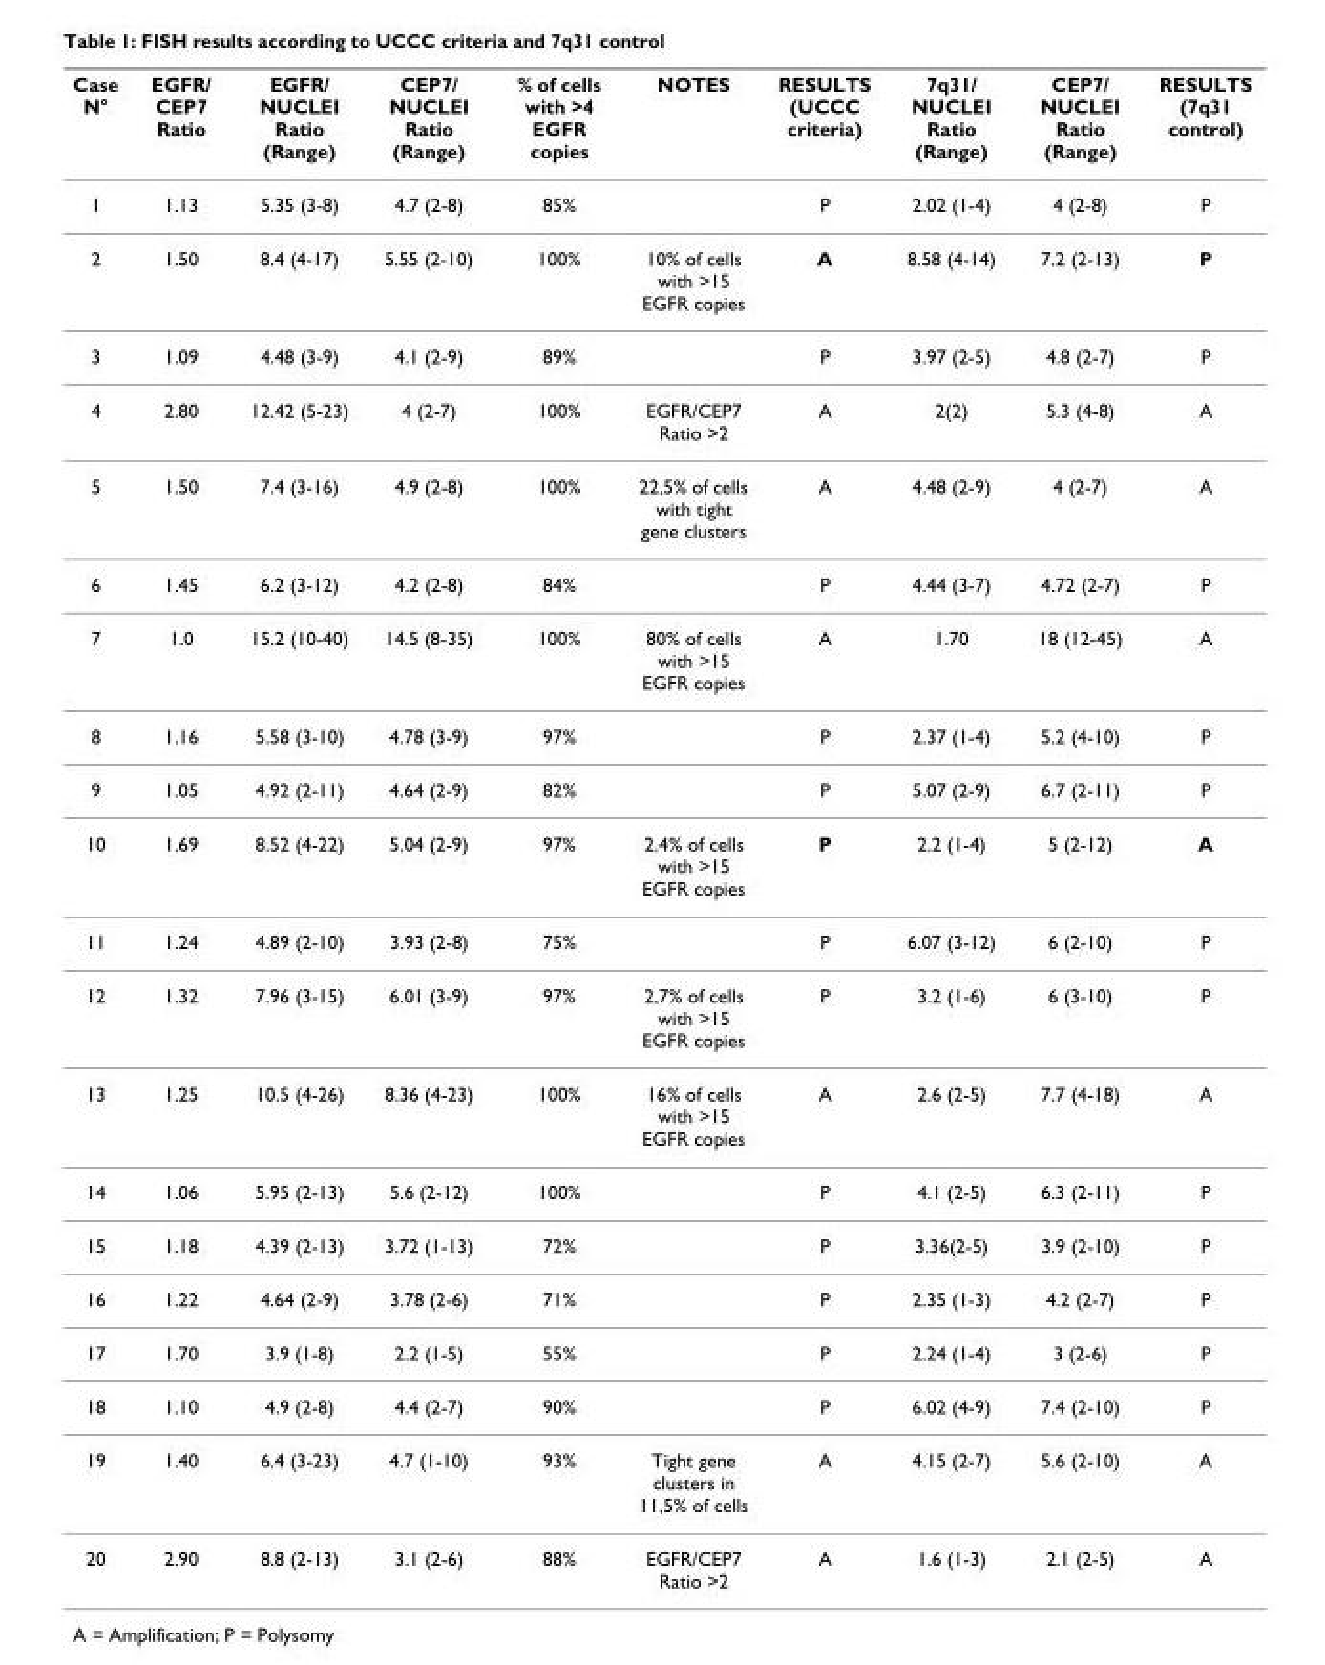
<table><thead><tr><td>Case N°</td><td>EGFR/ CEP7 Ratio</td><td>EGFR/ NUCLEI Ratio (Range)</td><td>CEP7/ NUCLEI Ratio (Range)</td><td>% of cells with &gt;4 EGFR copies</td><td>NOTES</td><td>RESULTS (UCCC criteria)</td><td>7q31/ NUCLEI Ratio (Range)</td><td>CEP7/ NUCLEI Ratio (Range)</td><td>RESULTS (7q31 control)</td></tr></thead><tbody><tr><td>1</td><td>1.13</td><td>5.35 (3-8)</td><td>4.7 (2-8)</td><td>85%</td><td></td><td>P</td><td>2.02 (1-4)</td><td>4 (2-8)</td><td>P</td></tr><tr><td>2</td><td>1.50</td><td>8.4 (4-17)</td><td>5.55 (2-10)</td><td>100%</td><td>10% of cells with &gt;15 EGFR copies</td><td>A</td><td>8.58 (4-14)</td><td>7.2 (2-13)</td><td>P</td></tr><tr><td>3</td><td>1.09</td><td>4.48 (3-9)</td><td>4.1 (2-9)</td><td>89%</td><td></td><td>P</td><td>3.97 (2-5)</td><td>4.8 (2-7)</td><td>P</td></tr><tr><td>4</td><td>2.80</td><td>12.42 (5-23)</td><td>4 (2-7)</td><td>100%</td><td>EGFR/CEP7 Ratio &gt;2</td><td>A</td><td>2(2)</td><td>5.3 (4-8)</td><td>A</td></tr><tr><td>5</td><td>1.50</td><td>7.4 (3-16)</td><td>4.9 (2-8)</td><td>100%</td><td>22,5% of cells with tight gene clusters</td><td>A</td><td>4.48 (2-9)</td><td>4 (2-7)</td><td>A</td></tr><tr><td>6</td><td>1.45</td><td>6.2 (3-12)</td><td>4.2 (2-8)</td><td>84%</td><td></td><td>P</td><td>4.44 (3-7)</td><td>4.72 (2-7)</td><td>P</td></tr><tr><td>7</td><td>1.0</td><td>15.2 (10-40)</td><td>14.5 (8-35)</td><td>100%</td><td>80% of cells with &gt;15 EGFR copies</td><td>A</td><td>1.70</td><td>18 (12-45)</td><td>A</td></tr><tr><td>8</td><td>1.16</td><td>5.58 (3-10)</td><td>4.78 (3-9)</td><td>97%</td><td></td><td>P</td><td>2.37 (1-4)</td><td>5.2 (4-10)</td><td>P</td></tr><tr><td>9</td><td>1.05</td><td>4.92 (2-11)</td><td>4.64 (2-9)</td><td>82%</td><td></td><td>P</td><td>5.07 (2-9)</td><td>6.7 (2-11)</td><td>P</td></tr><tr><td>10</td><td>1.69</td><td>8.52 (4-22)</td><td>5.04 (2-9)</td><td>97%</td><td>2.4% of cells with &gt;15 EGFR copies</td><td>P</td><td>2.2 (1-4)</td><td>5 (2-12)</td><td>A</td></tr><tr><td>11</td><td>1.24</td><td>4.89 (2-10)</td><td>3.93 (2-8)</td><td>75%</td><td></td><td>P</td><td>6.07 (3-12)</td><td>6 (2-10)</td><td>P</td></tr><tr><td>12</td><td>1.32</td><td>7.96 (3-15)</td><td>6.01 (3-9)</td><td>97%</td><td>2,7% of cells with &gt;15 EGFR copies</td><td>P</td><td>3.2 (1-6)</td><td>6 (3-10)</td><td>P</td></tr><tr><td>13</td><td>1.25</td><td>10.5 (4-26)</td><td>8.36 (4-23)</td><td>100%</td><td>16% of cells with &gt;15 EGFR copies</td><td>A</td><td>2.6 (2-5)</td><td>7.7 (4-18)</td><td>A</td></tr><tr><td>14</td><td>1.06</td><td>5.95 (2-13)</td><td>5.6 (2-12)</td><td>100%</td><td></td><td>P</td><td>4.1 (2-5)</td><td>6.3 (2-11)</td><td>P</td></tr><tr><td>15</td><td>1.18</td><td>4.39 (2-13)</td><td>3.72 (1-13)</td><td>72%</td><td></td><td>P</td><td>3.36(2-5)</td><td>3.9 (2-10)</td><td>P</td></tr><tr><td>16</td><td>1.22</td><td>4.64 (2-9)</td><td>3.78 (2-6)</td><td>71%</td><td></td><td>P</td><td>2.35 (1-3)</td><td>4.2 (2-7)</td><td>P</td></tr><tr><td>17</td><td>1.70</td><td>3.9 (1-8)</td><td>2.2 (1-5)</td><td>55%</td><td></td><td>P</td><td>2.24 (1-4)</td><td>3 (2-6)</td><td>P</td></tr><tr><td>18</td><td>1.10</td><td>4.9 (2-8)</td><td>4.4 (2-7)</td><td>90%</td><td></td><td>P</td><td>6.02 (4-9)</td><td>7.4 (2-10)</td><td>P</td></tr><tr><td>19</td><td>1.40</td><td>6.4 (3-23)</td><td>4.7 (1-10)</td><td>93%</td><td>Tight gene clusters in 11,5% of cells</td><td>A</td><td>4.15 (2-7)</td><td>5.6 (2-10)</td><td>A</td></tr><tr><td>20</td><td>2.90</td><td>8.8 (2-13)</td><td>3.1 (2-6)</td><td>88%</td><td>EGFR/CEP7 Ratio &gt;2</td><td>A</td><td>1.6 (1-3)</td><td>2.1 (2-5)</td><td>A</td></tr></tbody></table>